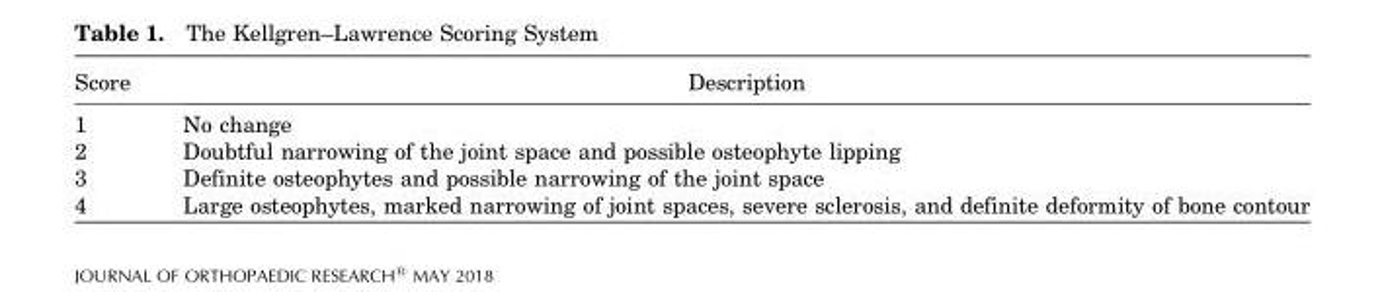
<table><thead><tr><td>Score</td><td>Description</td></tr></thead><tbody><tr><td>1</td><td>No change</td></tr><tr><td>2</td><td>Doubtful narrowing of the joint space and possible osteophyte lipping</td></tr><tr><td>3</td><td>Definite osteophytes and possible narrowing of the joint space</td></tr><tr><td>4</td><td>Large osteophytes, marked narrowing of joint spaces, severe sclerosis, and definite deformity of bone contour</td></tr></tbody></table>